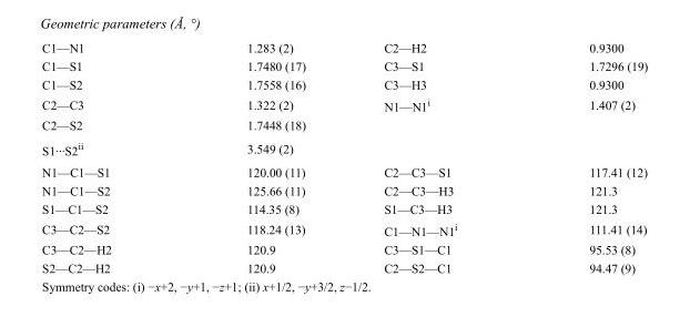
<table><tbody><tr><td>C1—N1</td><td>1.283 (2)</td><td>C2—H2</td><td>0.9300</td></tr><tr><td>C1—S1</td><td>1.7480 (17)</td><td>C3—S1</td><td>1.7296 (19)</td></tr><tr><td>C1—S2</td><td>1.7558 (16)</td><td>C3—H3</td><td>0.9300</td></tr><tr><td>C2—C3</td><td>1.322 (2)</td><td>N1—N1<sup>i</sup></td><td>1.407 (2)</td></tr><tr><td>C2—S2</td><td>1.7448 (18)</td><td></td><td></td></tr><tr><td>S1···S2<sup>ii</sup></td><td>3.549 (2)</td><td></td><td></td></tr><tr><td>N1—C1—S1</td><td>120.00 (11)</td><td>C2—C3—S1</td><td>117.41 (12)</td></tr><tr><td>N1—C1—S2</td><td>125.66 (11)</td><td>C2—C3—H3</td><td>121.3</td></tr><tr><td>S1—C1—S2</td><td>114.35 (8)</td><td>S1—C3—H3</td><td>121.3</td></tr><tr><td>C3—C2—S2</td><td>118.24 (13)</td><td>C1—N1—N1<sup>i</sup></td><td>111.41 (14)</td></tr><tr><td>C3—C2—H2</td><td>120.9</td><td>C3—S1—C1</td><td>95.53 (8)</td></tr><tr><td>S2—C2—H2</td><td>120.9</td><td>C2—S2—C1</td><td>94.47 (9)</td></tr></tbody></table>